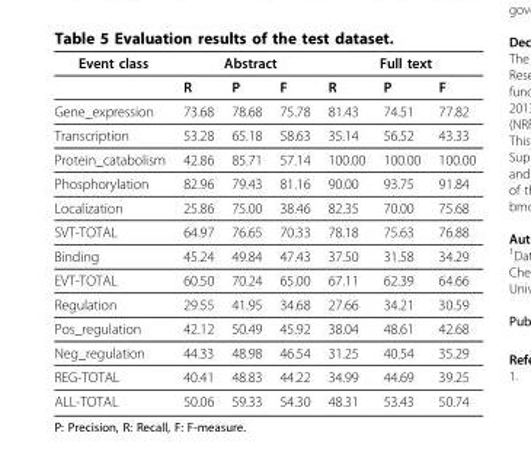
<table><thead><tr><td rowspan="2">Event class</td><td colspan="3">Abstract</td><td colspan="3">Full text</td></tr><tr><td>R</td><td>P</td><td>F</td><td>R</td><td>P</td><td>F</td></tr></thead><tbody><tr><td>Gene_expression</td><td>73.68</td><td>78.68</td><td>75.78</td><td>81.43</td><td>74.51</td><td>77.82</td></tr><tr><td>Transcription</td><td>53.28</td><td>65.18</td><td>58.63</td><td>35.14</td><td>56.52</td><td>43.33</td></tr><tr><td>Protein_catabolism</td><td>42.86</td><td>85.71</td><td>57.14</td><td>100.00</td><td>100.00</td><td>100.00</td></tr><tr><td>Phosphorylation</td><td>82.96</td><td>79.43</td><td>81.16</td><td>90.00</td><td>93.75</td><td>91.84</td></tr><tr><td>Localization</td><td>25.86</td><td>75.00</td><td>38.46</td><td>82.35</td><td>70.00</td><td>75.68</td></tr><tr><td>SVT-TOTAL</td><td>64.97</td><td>76.65</td><td>70.33</td><td>78.18</td><td>75.63</td><td>76.88</td></tr><tr><td>Binding</td><td>45.24</td><td>49.84</td><td>47.43</td><td>37.50</td><td>31.58</td><td>34.29</td></tr><tr><td>EVT-TOTAL</td><td>60.50</td><td>70.24</td><td>65.00</td><td>67.11</td><td>62.39</td><td>64.66</td></tr><tr><td>Regulation</td><td>29.55</td><td>41.95</td><td>34.68</td><td>27.66</td><td>34.21</td><td>30.59</td></tr><tr><td>Pos_regulation</td><td>42.12</td><td>50.49</td><td>45.92</td><td>38.04</td><td>48.61</td><td>42.68</td></tr><tr><td>Neg_regulation</td><td>44.33</td><td>48.98</td><td>46.54</td><td>31.25</td><td>40.54</td><td>35.29</td></tr><tr><td>REG-TOTAL</td><td>40.41</td><td>48.83</td><td>44.22</td><td>34.99</td><td>44.69</td><td>39.25</td></tr><tr><td>ALL-TOTAL</td><td>50.06</td><td>59.33</td><td>54.30</td><td>48.31</td><td>53.43</td><td>50.74</td></tr></tbody></table>